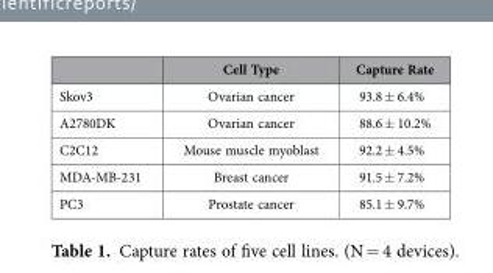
<table><thead><tr><td></td><td>Cell Type</td><td>Capture Rate</td></tr></thead><tbody><tr><td>Skov3</td><td>Ovarian cancer</td><td>93.8 ± 6.4%</td></tr><tr><td>A2780DK</td><td>Ovarian cancer</td><td>88.6 ± 10.2%</td></tr><tr><td>C2C12</td><td>Mouse muscle myoblast</td><td>92.2 ± 4.5%</td></tr><tr><td>MDA-MB-231</td><td>Breast cancer</td><td>91.5 ± 7.2%</td></tr><tr><td>PC3</td><td>Prostate cancer</td><td>85.1 ± 9.7%</td></tr></tbody></table>